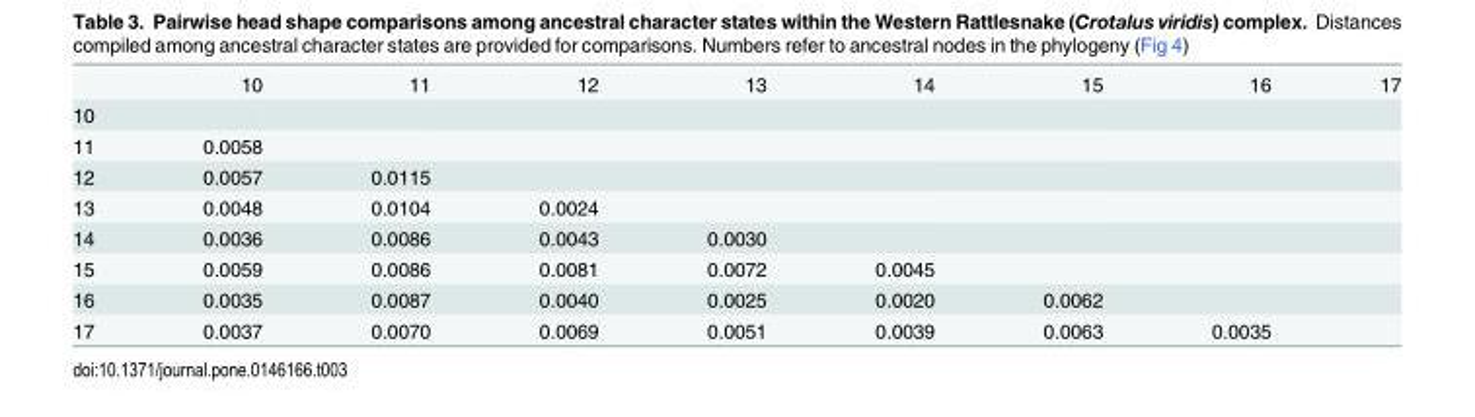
<table><thead><tr><td></td><td>10</td><td>11</td><td>12</td><td>13</td><td>14</td><td>15</td><td>16</td><td>17</td></tr></thead><tbody><tr><td colspan="9">10</td></tr><tr><td>11</td><td>0.0058</td><td></td><td></td><td></td><td></td><td></td><td></td><td></td></tr><tr><td>12</td><td>0.0057</td><td>0.0115</td><td></td><td></td><td></td><td></td><td></td><td></td></tr><tr><td>13</td><td>0.0048</td><td>0.0104</td><td>0.0024</td><td></td><td></td><td></td><td></td><td></td></tr><tr><td>14</td><td>0.0036</td><td>0.0086</td><td>0.0043</td><td>0.0030</td><td></td><td></td><td></td><td></td></tr><tr><td>15</td><td>0.0059</td><td>0.0086</td><td>0.0081</td><td>0.0072</td><td>0.0045</td><td></td><td></td><td></td></tr><tr><td>16</td><td>0.0035</td><td>0.0087</td><td>0.0040</td><td>0.0025</td><td>0.0020</td><td>0.0062</td><td></td><td></td></tr><tr><td>17</td><td>0.0037</td><td>0.0070</td><td>0.0069</td><td>0.0051</td><td>0.0039</td><td>0.0063</td><td>0.0035</td><td></td></tr></tbody></table>